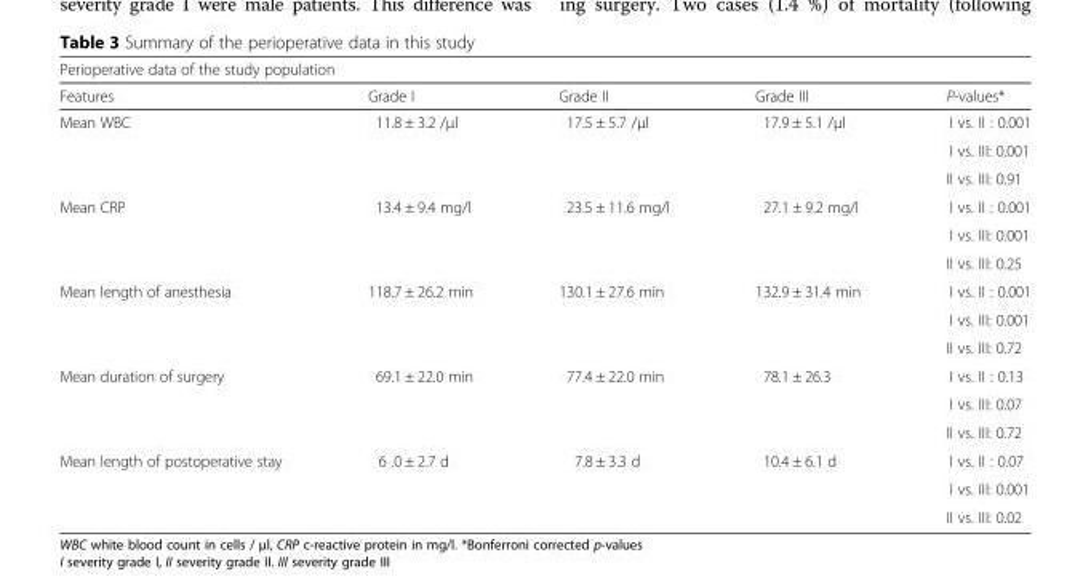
<table><thead><tr><td colspan="5">Perioperative data of the study population</td></tr><tr><td>Features</td><td>Grade I</td><td>Grade II</td><td>Grade III</td><td>P-values*</td></tr></thead><tbody><tr><td rowspan="3">Mean WBC</td><td rowspan="3">11.8 ± 3.2 /μl</td><td rowspan="3">17.5 ± 5.7 /μl</td><td rowspan="3">17.9 ± 5.1 /μl</td><td>I vs. II : 0.001</td></tr><tr><td>I vs. III: 0.001</td></tr><tr><td>II vs. III: 0.91</td></tr><tr><td rowspan="3">Mean CRP</td><td rowspan="3">13.4 ± 9.4 mg/l</td><td rowspan="3">23.5 ± 11.6 mg/l</td><td rowspan="3">27.1 ± 9.2 mg/l</td><td>I vs. II : 0.001</td></tr><tr><td>I vs. III: 0.001</td></tr><tr><td>II vs. III: 0.25</td></tr><tr><td rowspan="3">Mean length of anesthesia</td><td rowspan="3">118.7 ± 26.2 min</td><td rowspan="3">130.1 ± 27.6 min</td><td rowspan="3">132.9 ± 31.4 min</td><td>I vs. II : 0.001</td></tr><tr><td>I vs. III: 0.001</td></tr><tr><td>II vs. III: 0.72</td></tr><tr><td rowspan="3">Mean duration of surgery</td><td rowspan="3">69.1 ± 22.0 min</td><td rowspan="3">77.4 ± 22.0 min</td><td rowspan="3">78.1 ± 26.3</td><td>I vs. II : 0.13</td></tr><tr><td>I vs. III: 0.07</td></tr><tr><td>II vs. III: 0.72</td></tr><tr><td rowspan="3">Mean length of postoperative stay</td><td rowspan="3">6 .0 ± 2.7 d</td><td rowspan="3">7.8 ± 3.3 d</td><td rowspan="3">10.4 ± 6.1 d</td><td>I vs. II : 0.07</td></tr><tr><td>I vs. III: 0.001</td></tr><tr><td>II vs. III: 0.02</td></tr></tbody></table>